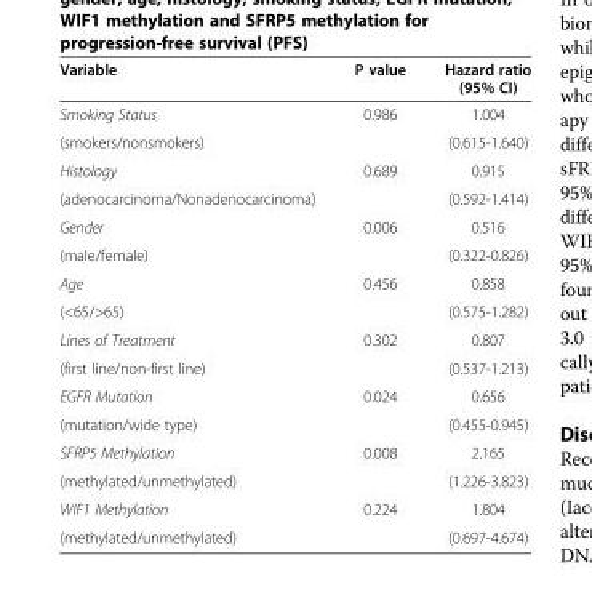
<table><thead><tr><td>Variable</td><td>P value</td><td>Hazard ratio (95% CI)</td></tr></thead><tbody><tr><td>Smoking Status</td><td>0.986</td><td>1.004</td></tr><tr><td>(smokers/nonsmokers)</td><td></td><td>(0.615-1.640)</td></tr><tr><td>Histology</td><td>0.689</td><td>0.915</td></tr><tr><td>(adenocarcinoma/Nonadenocarcinoma)</td><td></td><td>(0.592-1.414)</td></tr><tr><td>Gender</td><td>0.006</td><td>0.516</td></tr><tr><td>(male/female)</td><td></td><td>(0.322-0.826)</td></tr><tr><td>Age</td><td>0.456</td><td>0.858</td></tr><tr><td>(&lt;65/&gt;65)</td><td></td><td>(0.575-1.282)</td></tr><tr><td>Lines of Treatment</td><td>0.302</td><td>0.807</td></tr><tr><td>(first line/non-first line)</td><td></td><td>(0.537-1.213)</td></tr><tr><td>EGFR Mutation</td><td>0.024</td><td>0.656</td></tr><tr><td>(mutation/wide type)</td><td></td><td>(0.455-0.945)</td></tr><tr><td>SFRP5 Methylation</td><td>0.008</td><td>2.165</td></tr><tr><td>(methylated/unmethylated)</td><td></td><td>(1.226-3.823)</td></tr><tr><td>WIF1 Methylation</td><td>0.224</td><td>1.804</td></tr><tr><td>(methylated/unmethylated)</td><td></td><td>(0.697-4.674)</td></tr></tbody></table>